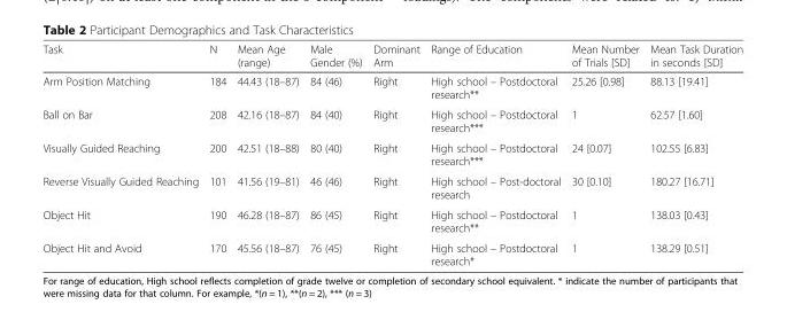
<table><thead><tr><td>Task</td><td>N</td><td>Mean Age (range)</td><td>Male Gender (%)</td><td>Dominant Arm</td><td>Range of Education</td><td>Mean Number of Trials [SD]</td><td>Mean Task Duration in seconds [SD]</td></tr></thead><tbody><tr><td>Arm Position Matching</td><td>184</td><td>44.43 (18–87)</td><td>84 (46)</td><td>Right</td><td>High school – Postdoctoral research**</td><td>25.26 [0.98]</td><td>88.13 [19.41]</td></tr><tr><td>Ball on Bar</td><td>208</td><td>42.16 (18–87)</td><td>84 (40)</td><td>Right</td><td>High school – Postdoctoral research***</td><td>1</td><td>62.57 [1.60]</td></tr><tr><td>Visually Guided Reaching</td><td>200</td><td>42.51 (18–88)</td><td>80 (40)</td><td>Right</td><td>High school – Postdoctoral research***</td><td>24 [0.07]</td><td>102.55 [6.83]</td></tr><tr><td>Reverse Visually Guided Reaching</td><td>101</td><td>41.56 (19–81)</td><td>46 (46)</td><td>Right</td><td>High school – Post-doctoral research</td><td>30 [0.10]</td><td>180.27 [16.71]</td></tr><tr><td>Object Hit</td><td>190</td><td>46.28 (18–87)</td><td>86 (45)</td><td>Right</td><td>High school – Postdoctoral research**</td><td>1</td><td>138.03 [0.43]</td></tr><tr><td>Object Hit and Avoid</td><td>170</td><td>45.56 (18–87)</td><td>76 (45)</td><td>Right</td><td>High school – Postdoctoral research*</td><td>1</td><td>138.29 [0.51]</td></tr></tbody></table>